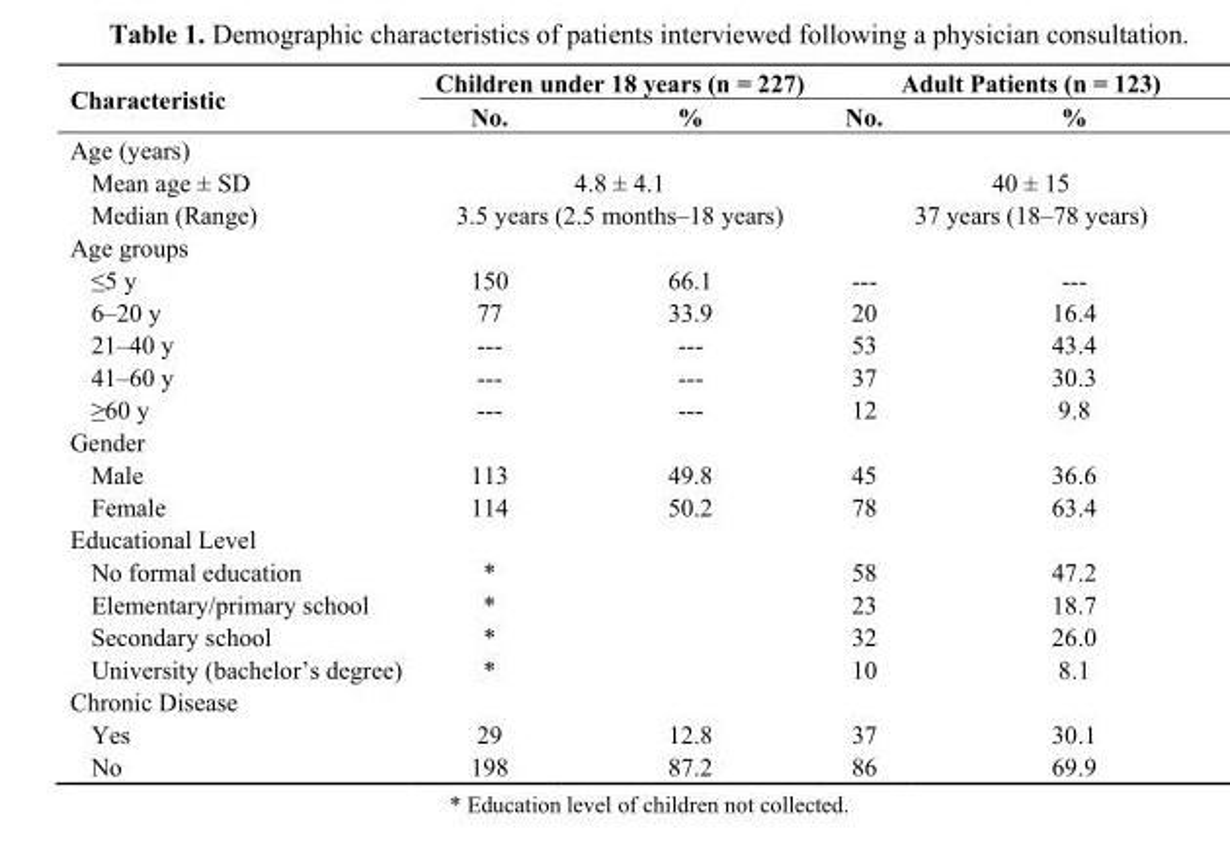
<table><thead><tr><td rowspan="2">Characteristic</td><td colspan="2">Children under 18 years (n = 227)</td><td colspan="2">Adult Patients (n = 123)</td></tr><tr><td>No.</td><td>%</td><td>No.</td><td>%</td></tr></thead><tbody><tr><td colspan="5">Age (years)</td></tr><tr><td>Mean age ± SD</td><td colspan="2">4.8 ± 4.1</td><td colspan="2">40 ± 15</td></tr><tr><td>Median (Range)</td><td colspan="2">3.5 years (2.5 months–18 years)</td><td colspan="2">37 years (18–78 years)</td></tr><tr><td colspan="5">Age groups</td></tr><tr><td>≤5 y</td><td>150</td><td>66.1</td><td>---</td><td>---</td></tr><tr><td>6–20 y</td><td>77</td><td>33.9</td><td>20</td><td>16.4</td></tr><tr><td>21–40 y</td><td>---</td><td>---</td><td>53</td><td>43.4</td></tr><tr><td>41–60 y</td><td>---</td><td>---</td><td>37</td><td>30.3</td></tr><tr><td>≥60 y</td><td>---</td><td>---</td><td>12</td><td>9.8</td></tr><tr><td colspan="5">Gender</td></tr><tr><td>Male</td><td>113</td><td>49.8</td><td>45</td><td>36.6</td></tr><tr><td>Female</td><td>114</td><td>50.2</td><td>78</td><td>63.4</td></tr><tr><td colspan="5">Educational Level</td></tr><tr><td>No formal education</td><td>*</td><td></td><td>58</td><td>47.2</td></tr><tr><td>Elementary/primary school</td><td>*</td><td></td><td>23</td><td>18.7</td></tr><tr><td>Secondary school</td><td>*</td><td></td><td>32</td><td>26.0</td></tr><tr><td>University (bachelor’s degree)</td><td>*</td><td></td><td>10</td><td>8.1</td></tr><tr><td colspan="5">Chronic Disease</td></tr><tr><td>Yes</td><td>29</td><td>12.8</td><td>37</td><td>30.1</td></tr><tr><td>No</td><td>198</td><td>87.2</td><td>86</td><td>69.9</td></tr></tbody></table>